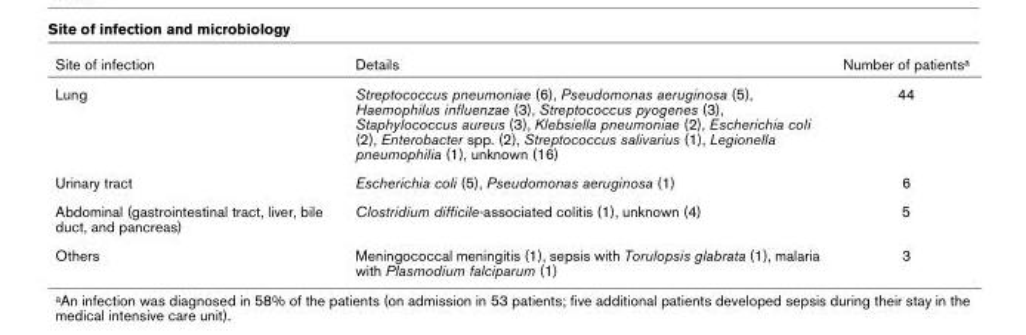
<table><thead><tr><td>Site of infection</td><td>Details</td><td>Number of patientsa</td></tr></thead><tbody><tr><td>Lung</td><td>Streptococcus pneumoniae (6), Pseudomonas aeruginosa (5), Haemophilus influenzae (3), Streptococcus pyogenes (3), Staphylococcus aureus (3), Klebsiella pneumoniae (2), Escherichia coli (2), Enterobacter spp. (2), Streptococcus salivarius (1), Legionella pneumophilia (1), unknown (16)</td><td>44</td></tr><tr><td>Urinary tract</td><td>Escherichia coli (5), Pseudomonas aeruginosa (1)</td><td>6</td></tr><tr><td>Abdominal (gastrointestinal tract, liver, bile duct, and pancreas)</td><td>Clostridium difficile-associated colitis (1), unknown (4)</td><td>5</td></tr><tr><td>Others</td><td>Meningococcal meningitis (1), sepsis with Torulopsis glabrata (1), malaria with Plasmodium falciparum (1)</td><td>3</td></tr></tbody></table>